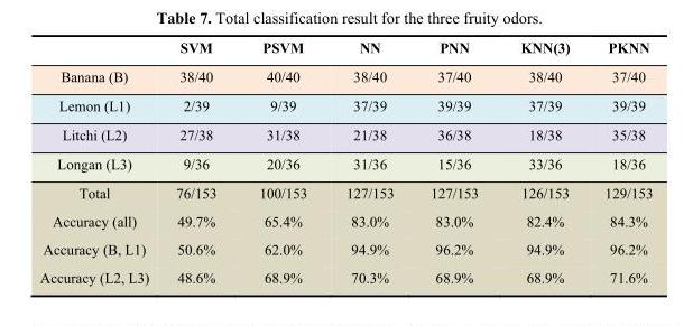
<table><thead><tr><td></td><td>SVM</td><td>PSVM</td><td>NN</td><td>PNN</td><td>KNN(3)</td><td>PKNN</td></tr></thead><tbody><tr><td>Banana (B)</td><td>38/40</td><td>40/40</td><td>38/40</td><td>37/40</td><td>38/40</td><td>37/40</td></tr><tr><td>Lemon (L1)</td><td>2/39</td><td>9/39</td><td>37/39</td><td>39/39</td><td>37/39</td><td>39/39</td></tr><tr><td>Litchi (L2)</td><td>27/38</td><td>31/38</td><td>21/38</td><td>36/38</td><td>18/38</td><td>35/38</td></tr><tr><td>Longan (L3)</td><td>9/36</td><td>20/36</td><td>31/36</td><td>15/36</td><td>33/36</td><td>18/36</td></tr><tr><td>Total</td><td>76/153</td><td>100/153</td><td>127/153</td><td>127/153</td><td>126/153</td><td>129/153</td></tr><tr><td>Accuracy (all)</td><td>49.7%</td><td>65.4%</td><td>83.0%</td><td>83.0%</td><td>82.4%</td><td>84.3%</td></tr><tr><td>Accuracy (B, L1)</td><td>50.6%</td><td>62.0%</td><td>94.9%</td><td>96.2%</td><td>94.9%</td><td>96.2%</td></tr><tr><td>Accuracy (L2, L3)</td><td>48.6%</td><td>68.9%</td><td>70.3%</td><td>68.9%</td><td>68.9%</td><td>71.6%</td></tr></tbody></table>